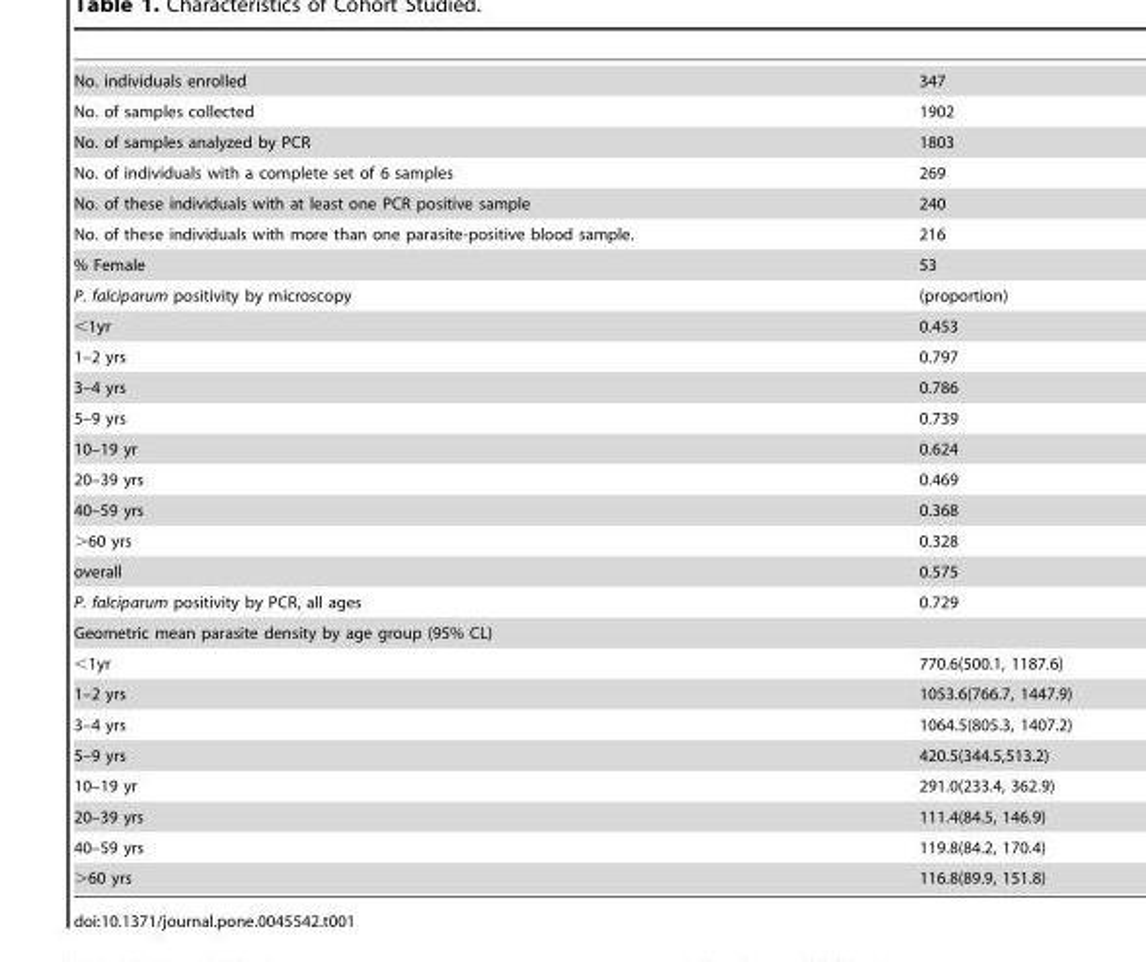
<table><tbody><tr><td>No. individuals enrolled</td><td>347</td></tr><tr><td>No. of samples collected</td><td>1902</td></tr><tr><td>No. of samples analyzed by PCR</td><td>1803</td></tr><tr><td>No. of individuals with a complete set of 6 samples</td><td>269</td></tr><tr><td>No. of these individuals with at least one PCR positive sample</td><td>240</td></tr><tr><td>No. of these individuals with more than one parasite-positive blood sample.</td><td>216</td></tr><tr><td>% Female</td><td>53</td></tr><tr><td>P. falciparum positivity by microscopy</td><td>(proportion)</td></tr><tr><td>&lt;1yr</td><td>0.453</td></tr><tr><td>1–2 yrs</td><td>0.797</td></tr><tr><td>3–4 yrs</td><td>0.786</td></tr><tr><td>5–9 yrs</td><td>0.739</td></tr><tr><td>10–19 yr</td><td>0.624</td></tr><tr><td>20–39 yrs</td><td>0.469</td></tr><tr><td>40–59 yrs</td><td>0.368</td></tr><tr><td>&gt;60 yrs</td><td>0.328</td></tr><tr><td>overall</td><td>0.575</td></tr><tr><td>P. falciparum positivity by PCR, all ages</td><td>0.729</td></tr><tr><td colspan="2">Geometric mean parasite density by age group (95% CL)</td></tr><tr><td>&lt;1yr</td><td>770.6(500.1, 1187.6)</td></tr><tr><td>1–2 yrs</td><td>1053.6(766.7, 1447.9)</td></tr><tr><td>3–4 yrs</td><td>1064.5(805.3, 1407.2)</td></tr><tr><td>5–9 yrs</td><td>420.5(344.5,513.2)</td></tr><tr><td>10–19 yr</td><td>291.0(233.4, 362.9)</td></tr><tr><td>20–39 yrs</td><td>111.4(84.5, 146.9)</td></tr><tr><td>40–59 yrs</td><td>119.8(84.2, 170.4)</td></tr><tr><td>&gt;60 yrs</td><td>116.8(89.9, 151.8)</td></tr></tbody></table>